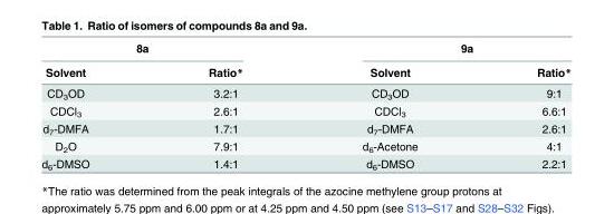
<table><thead><tr><td colspan="2">8a</td><td colspan="2">9a</td></tr><tr><td>Solvent</td><td>Ratio*</td><td>Solvent</td><td>Ratio*</td></tr></thead><tbody><tr><td>CD<sub>3</sub>OD</td><td>3.2:1</td><td>CD<sub>3</sub>OD</td><td>9:1</td></tr><tr><td>CDCl<sub>3</sub></td><td>2.6:1</td><td>CDCl<sub>3</sub></td><td>6.6:1</td></tr><tr><td>d<sub>7</sub>-DMFA</td><td>1.7:1</td><td>d<sub>7</sub>-DMFA</td><td>2.6:1</td></tr><tr><td>D<sub>2</sub>O</td><td>7.9:1</td><td>d<sub>6</sub>-Acetone</td><td>4:1</td></tr><tr><td>d<sub>6</sub>-DMSO</td><td>1.4:1</td><td>d<sub>6</sub>-DMSO</td><td>2.2:1</td></tr></tbody></table>